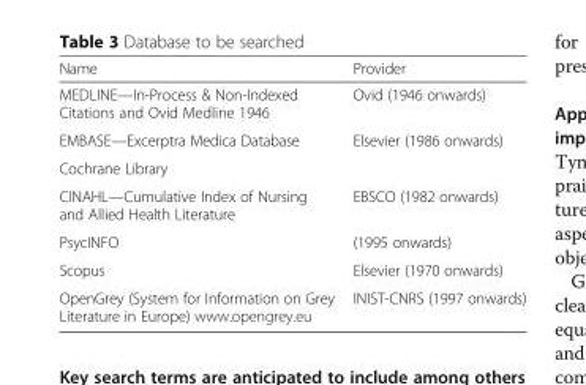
<table><thead><tr><td>Name</td><td>Provider</td></tr></thead><tbody><tr><td>MEDLINE—In-Process &amp; Non-Indexed Citations and Ovid Medline 1946</td><td>Ovid (1946 onwards)</td></tr><tr><td>EMBASE—Excerptra Medica Database</td><td>Elsevier (1986 onwards)</td></tr><tr><td colspan="2">Cochrane Library</td></tr><tr><td>CINAHL—Cumulative Index of Nursing and Allied Health Literature</td><td>EBSCO (1982 onwards)</td></tr><tr><td>PsycINFO</td><td>(1995 onwards)</td></tr><tr><td>Scopus</td><td>Elsevier (1970 onwards)</td></tr><tr><td>OpenGrey (System for Information on Grey Literature in Europe) www.opengrey.eu</td><td>INIST-CNRS (1997 onwards)</td></tr></tbody></table>